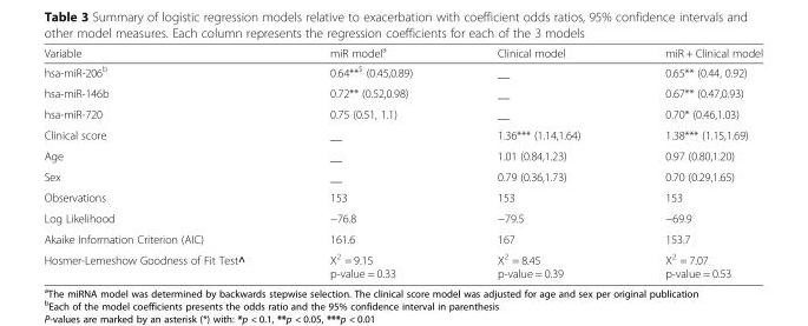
<table><thead><tr><td>Variable</td><td>miR model<sup>a</sup></td><td>Clinical model</td><td>miR + Clinical model</td></tr></thead><tbody><tr><td>hsa-miR-206<sup>b</sup></td><td>0.64**<sup>$</sup> (0.45,0.89)</td><td>__</td><td>0.65** (0.44, 0.92)</td></tr><tr><td>hsa-miR-146b</td><td>0.72** (0.52,0.98)</td><td>__</td><td>0.67** (0.47,0.93)</td></tr><tr><td>hsa-miR-720</td><td>0.75 (0.51, 1.1)</td><td>__</td><td>0.70* (0.46,1.03)</td></tr><tr><td>Clinical score</td><td>__</td><td>1.36*** (1.14,1.64)</td><td>1.38*** (1.15,1.69)</td></tr><tr><td>Age</td><td>__</td><td>1.01 (0.84,1.23)</td><td>0.97 (0.80,1.20)</td></tr><tr><td>Sex</td><td>__</td><td>0.79 (0.36,1.73)</td><td>0.70 (0.29,1.65)</td></tr><tr><td>Observations</td><td>153</td><td>153</td><td>153</td></tr><tr><td>Log Likelihood</td><td>−76.8</td><td>−79.5</td><td>−69.9</td></tr><tr><td>Akaike Information Criterion (AIC)</td><td>161.6</td><td>167</td><td>153.7</td></tr><tr><td>Hosmer-Lemeshow Goodness of Fit Test^</td><td>Χ<sup>2</sup> = 9.15 p-value = 0.33</td><td>Χ<sup>2</sup> = 8.45 p-value = 0.39</td><td>Χ<sup>2</sup> = 7.07 p-value = 0.53</td></tr></tbody></table>